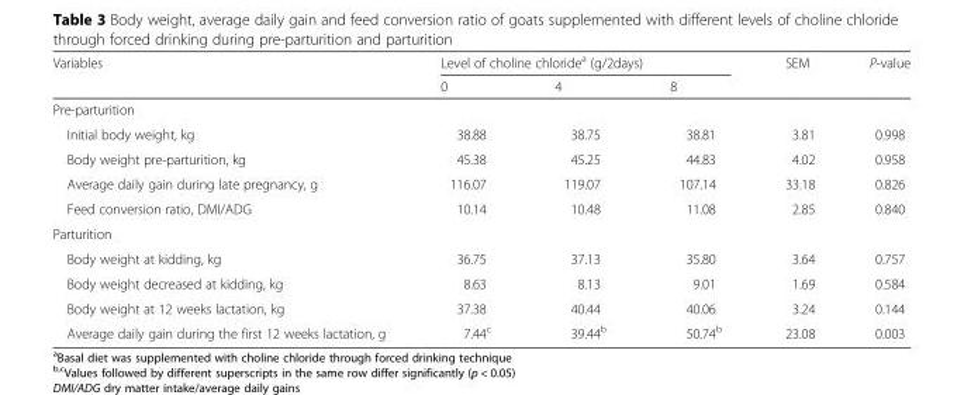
<table><thead><tr><td rowspan="2">Variables</td><td colspan="3">Level of choline chloride<sup>a</sup> (g/2days)</td><td rowspan="2">SEM</td><td rowspan="2">P-value</td></tr><tr><td>0</td><td>4</td><td>8</td></tr></thead><tbody><tr><td colspan="6">Pre-parturition</td></tr><tr><td>Initial body weight, kg</td><td>38.88</td><td>38.75</td><td>38.81</td><td>3.81</td><td>0.998</td></tr><tr><td>Body weight pre-parturition, kg</td><td>45.38</td><td>45.25</td><td>44.83</td><td>4.02</td><td>0.958</td></tr><tr><td>Average daily gain during late pregnancy, g</td><td>116.07</td><td>119.07</td><td>107.14</td><td>33.18</td><td>0.826</td></tr><tr><td>Feed conversion ratio, DMI/ADG</td><td>10.14</td><td>10.48</td><td>11.08</td><td>2.85</td><td>0.840</td></tr><tr><td colspan="6">Parturition</td></tr><tr><td>Body weight at kidding, kg</td><td>36.75</td><td>37.13</td><td>35.80</td><td>3.64</td><td>0.757</td></tr><tr><td>Body weight decreased at kidding, kg</td><td>8.63</td><td>8.13</td><td>9.01</td><td>1.69</td><td>0.584</td></tr><tr><td>Body weight at 12 weeks lactation, kg</td><td>37.38</td><td>40.44</td><td>40.06</td><td>3.24</td><td>0.144</td></tr><tr><td>Average daily gain during the first 12 weeks lactation, g</td><td>7.44<sup>c</sup></td><td>39.44<sup>b</sup></td><td>50.74<sup>b</sup></td><td>23.08</td><td>0.003</td></tr></tbody></table>